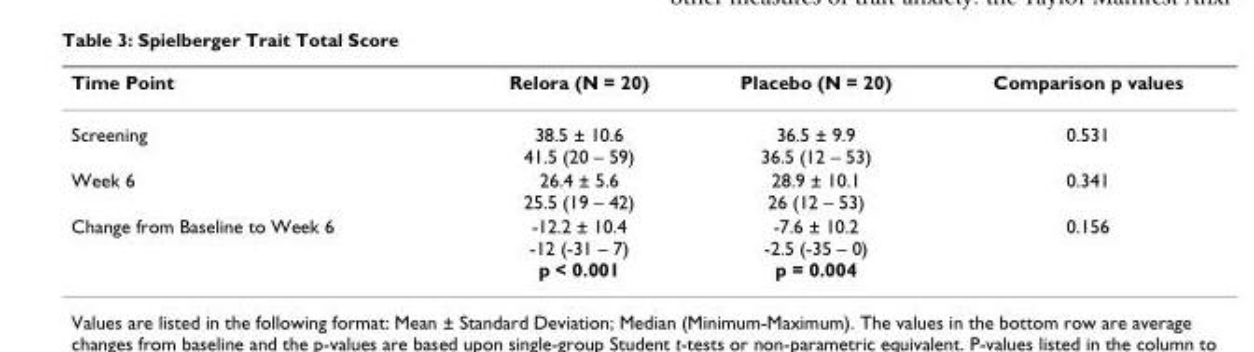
<table><thead><tr><td>Time Point</td><td>Relora (N = 20)</td><td>Placebo (N = 20)</td><td>Comparison p values</td></tr></thead><tbody><tr><td>Screening</td><td>38.5 ± 10.6 41.5 (20 – 59)</td><td>36.5 ± 9.9 36.5 (12 – 53)</td><td>0.531</td></tr><tr><td>Week 6</td><td>26.4 ± 5.6 25.5 (19 – 42)</td><td>28.9 ± 10.1 26 (12 – 53)</td><td>0.341</td></tr><tr><td>Change from Baseline to Week 6</td><td>-12.2 ± 10.4 -12 (-31 – 7) p &lt; 0.001</td><td>-7.6 ± 10.2 -2.5 (-35 – 0) p = 0.004</td><td>0.156</td></tr></tbody></table>